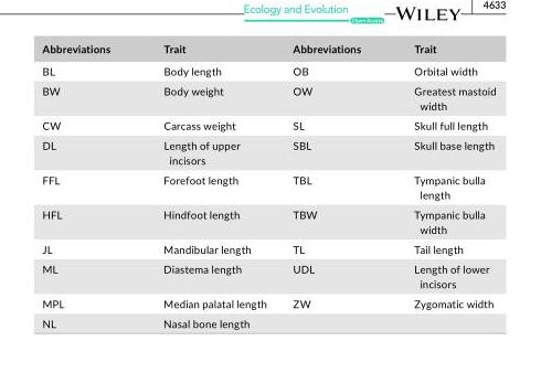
<table><thead><tr><td>Abbreviations</td><td>Trait</td><td>Abbreviations</td><td>Trait</td></tr></thead><tbody><tr><td>BL</td><td>Body length</td><td>OB</td><td>Orbital width</td></tr><tr><td>BW</td><td>Body weight</td><td>OW</td><td>Greatest mastoid width</td></tr><tr><td>CW</td><td>Carcass weight</td><td>SL</td><td>Skull full length</td></tr><tr><td>DL</td><td>Length of upper incisors</td><td>SBL</td><td>Skull base length</td></tr><tr><td>FFL</td><td>Forefoot length</td><td>TBL</td><td>Tympanic bulla length</td></tr><tr><td>HFL</td><td>Hindfoot length</td><td>TBW</td><td>Tympanic bulla width</td></tr><tr><td>JL</td><td>Mandibular length</td><td>TL</td><td>Tail length</td></tr><tr><td>ML</td><td>Diastema length</td><td>UDL</td><td>Length of lower incisors</td></tr><tr><td>MPL</td><td>Median palatal length</td><td>ZW</td><td>Zygomatic width</td></tr><tr><td>NL</td><td>Nasal bone length</td><td></td><td></td></tr></tbody></table>